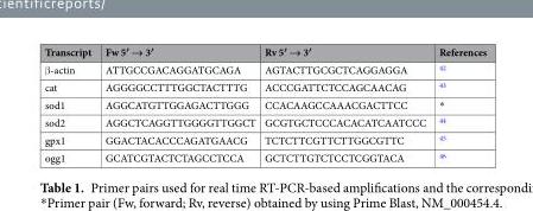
<table><thead><tr><td>Transcript</td><td>Fw 5′ → 3′</td><td>Rv 5′ → 3′</td><td>References</td></tr></thead><tbody><tr><td>β-actin</td><td>ATTGCCGACAGGATGCAGA</td><td>AGTACTTGCGCTCAGGAGGA</td><td><sup>42</sup></td></tr><tr><td>cat</td><td>AGGGGCCTTTGGCTACTTTG</td><td>ACCCGATTCTCCAGCAACAG</td><td><sup>43</sup></td></tr><tr><td>sod1</td><td>AGGCATGTTGGAGACTTGGG</td><td>CCACAAGCCAAACGACTTCC</td><td>*</td></tr><tr><td>sod2</td><td>AGGCTCAGGTTGGGGTTGGCT</td><td>GCGTGCTCCCACACATCAATCCC</td><td><sup>44</sup></td></tr><tr><td>gpx1</td><td>GGACTACACCCAGATGAACG</td><td>TCTCTTCGTTCTTGGCGTTC</td><td><sup>45</sup></td></tr><tr><td>ogg1</td><td>GCATCGTACTCTAGCCTCCA</td><td>GCTCTTGTCTCCTCGGTACA</td><td><sup>46</sup></td></tr></tbody></table>